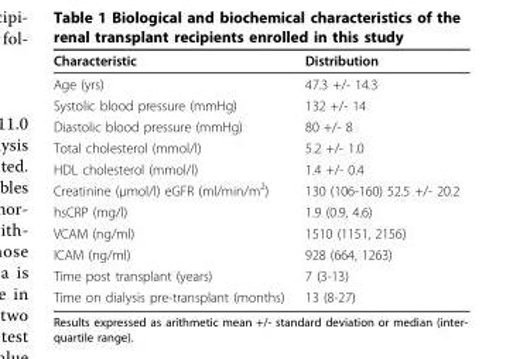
<table><thead><tr><td>Characteristic</td><td>Distribution</td></tr></thead><tbody><tr><td>Age (yrs)</td><td>47.3 +/- 14.3</td></tr><tr><td>Systolic blood pressure (mmHg)</td><td>132 +/- 14</td></tr><tr><td>Diastolic blood pressure (mmHg)</td><td>80 +/- 8</td></tr><tr><td>Total cholesterol (mmol/l)</td><td>5.2 +/- 1.0</td></tr><tr><td>HDL cholesterol (mmol/l)</td><td>1.4 +/- 0.4</td></tr><tr><td>Creatinine (μmol/l) eGFR (ml/min/m<sup>2</sup>)</td><td>130 (106-160) 52.5 +/- 20.2</td></tr><tr><td>hsCRP (mg/l)</td><td>1.9 (0.9, 4.6)</td></tr><tr><td>VCAM (ng/ml)</td><td>1510 (1151, 2156)</td></tr><tr><td>ICAM (ng/ml)</td><td>928 (664, 1263)</td></tr><tr><td>Time post transplant (years)</td><td>7 (3-13)</td></tr><tr><td>Time on dialysis pre-transplant (months)</td><td>13 (8-27)</td></tr></tbody></table>